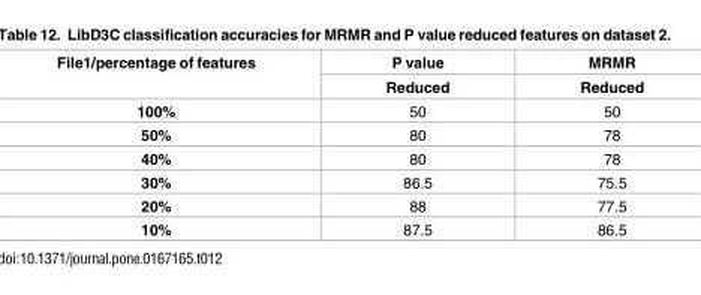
<table><thead><tr><td rowspan="2">File1/percentage of features</td><td rowspan="2">P value Reduced</td><td rowspan="2">MRMR Reduced</td></tr><tr></tr></thead><tbody><tr><td>100%</td><td>50</td><td>50</td></tr><tr><td>50%</td><td>80</td><td>78</td></tr><tr><td>40%</td><td>80</td><td>78</td></tr><tr><td>30%</td><td>86.5</td><td>75.5</td></tr><tr><td>20%</td><td>88</td><td>77.5</td></tr><tr><td>10%</td><td>87.5</td><td>86.5</td></tr></tbody></table>